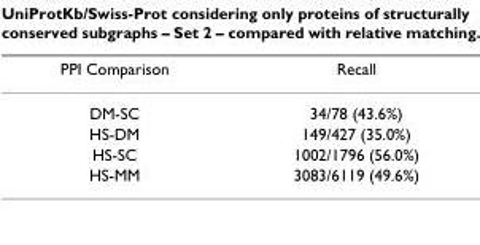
<table><thead><tr><td>PPI Comparison</td><td>Recall</td></tr></thead><tbody><tr><td>DM-SC</td><td>34/78 (43.6%)</td></tr><tr><td>HS-DM</td><td>149/427 (35.0%)</td></tr><tr><td>HS-SC</td><td>1002/1796 (56.0%)</td></tr><tr><td>HS-MM</td><td>3083/6119 (49.6%)</td></tr></tbody></table>